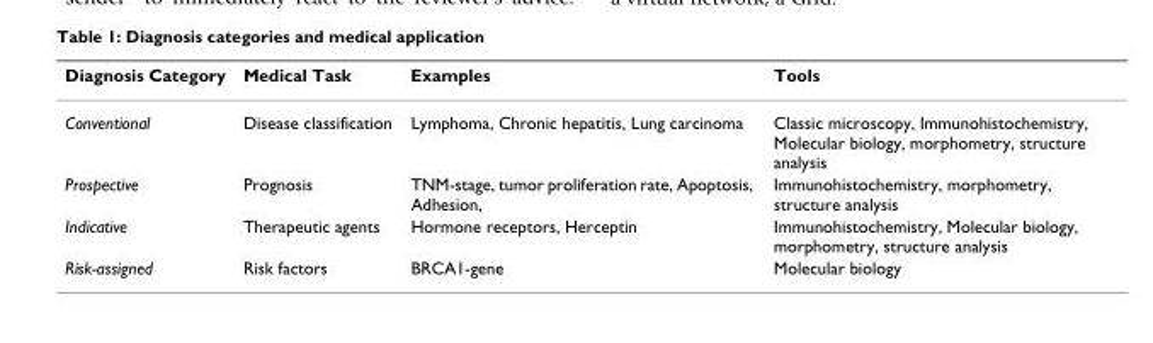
<table><thead><tr><td>Diagnosis Category</td><td>Medical Task</td><td>Examples</td><td>Tools</td></tr></thead><tbody><tr><td>Conventional</td><td>Disease classification</td><td>Lymphoma, Chronic hepatitis, Lung carcinoma</td><td>Classic microscopy, Immunohistochemistry, Molecular biology, morphometry, structure analysis</td></tr><tr><td>Prospective</td><td>Prognosis</td><td>TNM-stage, tumor proliferation rate, Apoptosis, Adhesion,</td><td>Immunohistochemistry, morphometry, structure analysis</td></tr><tr><td>Indicative</td><td>Therapeutic agents</td><td>Hormone receptors, Herceptin</td><td>Immunohistochemistry, Molecular biology, morphometry, structure analysis</td></tr><tr><td>Risk-assigned</td><td>Risk factors</td><td>BRCA1-gene</td><td>Molecular biology</td></tr></tbody></table>